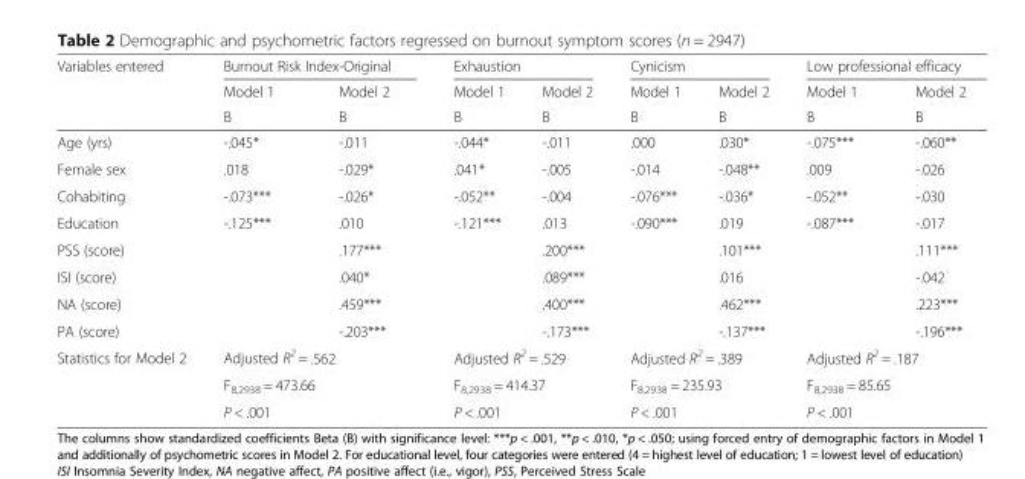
<table><thead><tr><td rowspan="3">Variables entered</td><td colspan="2">Burnout Risk Index-Original</td><td colspan="2">Exhaustion</td><td colspan="2">Cynicism</td><td colspan="2">Low professional efficacy</td></tr><tr><td rowspan="2">Model 1 B</td><td rowspan="2">Model 2 B</td><td rowspan="2">Model 1 B</td><td rowspan="2">Model 2 B</td><td rowspan="2">Model 1 B</td><td rowspan="2">Model 2 B</td><td rowspan="2">Model 1 B</td><td rowspan="2">Model 2 B</td></tr><tr></tr></thead><tbody><tr><td>Age (yrs)</td><td>-.045*</td><td>-.011</td><td>-.044*</td><td>-.011</td><td>.000</td><td>.030*</td><td>-.075***</td><td>-.060**</td></tr><tr><td>Female sex</td><td>.018</td><td>-.029*</td><td>.041*</td><td>-.005</td><td>-.014</td><td>-.048**</td><td>.009</td><td>-.026</td></tr><tr><td>Cohabiting</td><td>-.073***</td><td>-.026*</td><td>-.052**</td><td>-.004</td><td>-.076***</td><td>-.036*</td><td>-.052**</td><td>-.030</td></tr><tr><td>Education</td><td>-.125***</td><td>.010</td><td>-.121***</td><td>.013</td><td>-.090***</td><td>.019</td><td>-.087***</td><td>-.017</td></tr><tr><td>PSS (score)</td><td></td><td>.177***</td><td></td><td>.200***</td><td></td><td>.101***</td><td></td><td>.111***</td></tr><tr><td>ISI (score)</td><td></td><td>.040*</td><td></td><td>.089***</td><td></td><td>.016</td><td></td><td>-.042</td></tr><tr><td>NA (score)</td><td></td><td>.459***</td><td></td><td>.400***</td><td></td><td>.462***</td><td></td><td>.223***</td></tr><tr><td>PA (score)</td><td></td><td>-.203***</td><td></td><td>-.173***</td><td></td><td>-.137***</td><td></td><td>-.196***</td></tr><tr><td rowspan="3">Statistics for Model 2</td><td colspan="2">Adjusted R<sup>2</sup> = .562</td><td colspan="2">Adjusted R<sup>2</sup> = .529</td><td colspan="2">Adjusted R<sup>2</sup> = .389</td><td colspan="2">Adjusted R<sup>2</sup> = .187</td></tr><tr><td colspan="2">F<sub>8,2938</sub> = 473.66</td><td colspan="2">F<sub>8,2938</sub> = 414.37</td><td colspan="2">F<sub>8,2938</sub> = 235.93</td><td colspan="2">F<sub>8,2938</sub> = 85.65</td></tr><tr><td colspan="2">P &lt; .001</td><td colspan="2">P &lt; .001</td><td colspan="2">P &lt; .001</td><td colspan="2">P &lt; .001</td></tr></tbody></table>